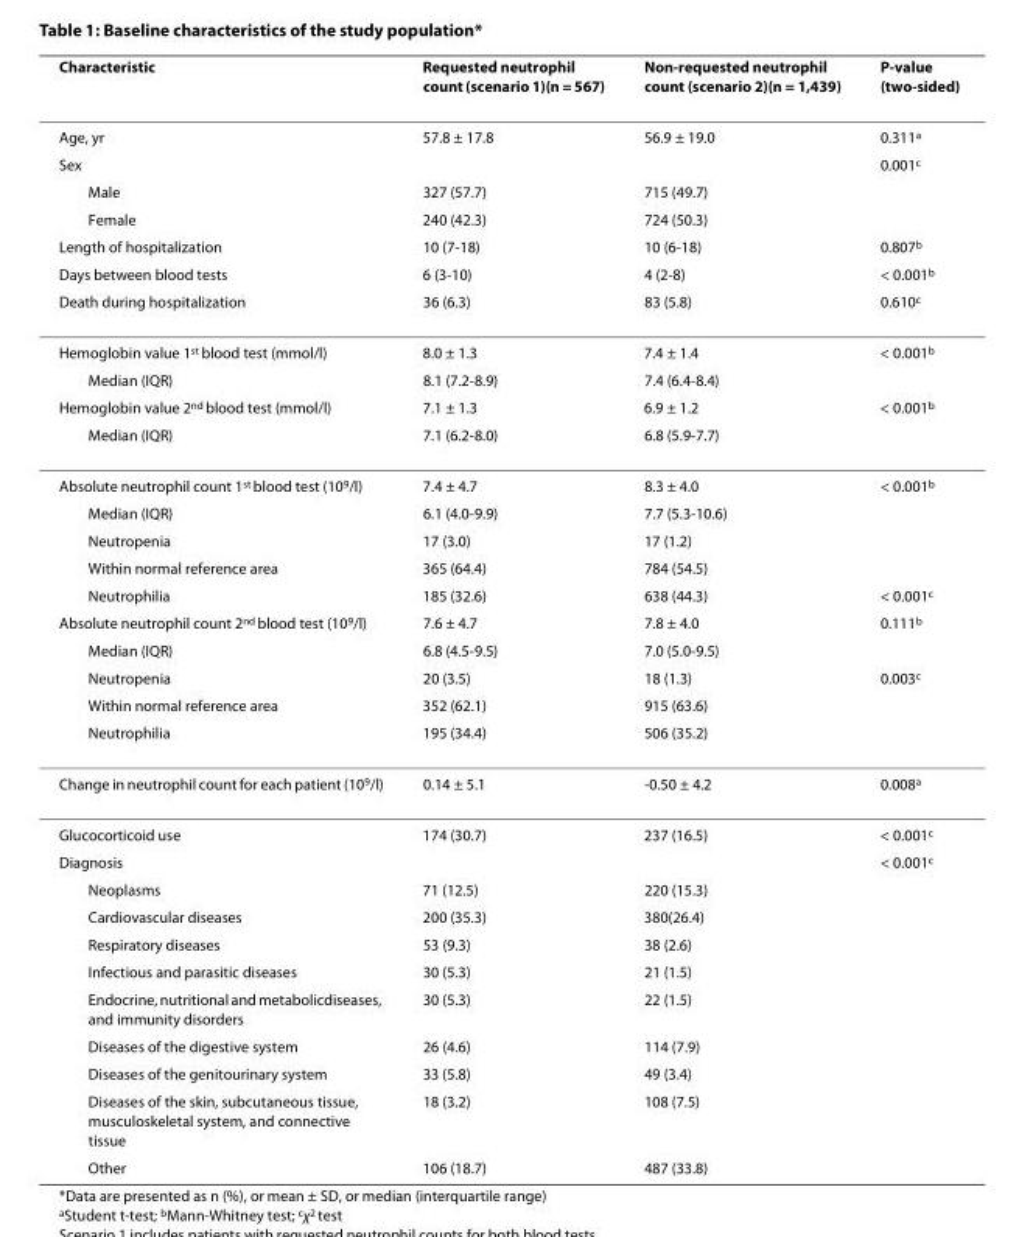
<table><thead><tr><td>Characteristic</td><td>Requested neutrophil count (scenario 1)(n = 567)</td><td>Non-requested neutrophil count (scenario 2)(n = 1,439)</td><td>P-value (two-sided)</td></tr></thead><tbody><tr><td>Age, yr</td><td>57.8 ± 17.8</td><td>56.9 ± 19.0</td><td>0.311<sup>a</sup></td></tr><tr><td>Sex</td><td></td><td></td><td>0.001<sup>c</sup></td></tr><tr><td>Male</td><td>327 (57.7)</td><td>715 (49.7)</td><td></td></tr><tr><td>Female</td><td>240 (42.3)</td><td>724 (50.3)</td><td></td></tr><tr><td>Length of hospitalization</td><td>10 (7-18)</td><td>10 (6-18)</td><td>0.807<sup>b</sup></td></tr><tr><td>Days between blood tests</td><td>6 (3-10)</td><td>4 (2-8)</td><td>&lt; 0.001<sup>b</sup></td></tr><tr><td>Death during hospitalization</td><td>36 (6.3)</td><td>83 (5.8)</td><td>0.610<sup>c</sup></td></tr><tr><td>Hemoglobin value 1<sup>st</sup> blood test (mmol/l)</td><td>8.0 ± 1.3</td><td>7.4 ± 1.4</td><td>&lt; 0.001<sup>b</sup></td></tr><tr><td>Median (IQR)</td><td>8.1 (7.2-8.9)</td><td>7.4 (6.4-8.4)</td><td></td></tr><tr><td>Hemoglobin value 2<sup>nd</sup> blood test (mmol/l)</td><td>7.1 ± 1.3</td><td>6.9 ± 1.2</td><td>&lt; 0.001<sup>b</sup></td></tr><tr><td>Median (IQR)</td><td>7.1 (6.2-8.0)</td><td>6.8 (5.9-7.7)</td><td></td></tr><tr><td>Absolute neutrophil count 1<sup>st</sup> blood test (10<sup>9</sup>/l)</td><td>7.4 ± 4.7</td><td>8.3 ± 4.0</td><td>&lt; 0.001<sup>b</sup></td></tr><tr><td>Median (IQR)</td><td>6.1 (4.0-9.9)</td><td>7.7 (5.3-10.6)</td><td></td></tr><tr><td>Neutropenia</td><td>17 (3.0)</td><td>17 (1.2)</td><td></td></tr><tr><td>Within normal reference area</td><td>365 (64.4)</td><td>784 (54.5)</td><td></td></tr><tr><td>Neutrophilia</td><td>185 (32.6)</td><td>638 (44.3)</td><td>&lt; 0.001<sup>c</sup></td></tr><tr><td>Absolute neutrophil count 2<sup>nd</sup> blood test (10<sup>9</sup>/l)</td><td>7.6 ± 4.7</td><td>7.8 ± 4.0</td><td>0.111<sup>b</sup></td></tr><tr><td>Median (IQR)</td><td>6.8 (4.5-9.5)</td><td>7.0 (5.0-9.5)</td><td></td></tr><tr><td>Neutropenia</td><td>20 (3.5)</td><td>18 (1.3)</td><td>0.003<sup>c</sup></td></tr><tr><td>Within normal reference area</td><td>352 (62.1)</td><td>915 (63.6)</td><td></td></tr><tr><td>Neutrophilia</td><td>195 (34.4)</td><td>506 (35.2)</td><td></td></tr><tr><td>Change in neutrophil count for each patient (10<sup>9</sup>/l)</td><td>0.14 ± 5.1</td><td>-0.50 ± 4.2</td><td>0.008<sup>a</sup></td></tr><tr><td>Glucocorticoid use</td><td>174 (30.7)</td><td>237 (16.5)</td><td>&lt; 0.001<sup>c</sup></td></tr><tr><td>Diagnosis</td><td></td><td></td><td>&lt; 0.001<sup>c</sup></td></tr><tr><td>Neoplasms</td><td>71 (12.5)</td><td>220 (15.3)</td><td></td></tr><tr><td>Cardiovascular diseases</td><td>200 (35.3)</td><td>380(26.4)</td><td></td></tr><tr><td>Respiratory diseases</td><td>53 (9.3)</td><td>38 (2.6)</td><td></td></tr><tr><td>Infectious and parasitic diseases</td><td>30 (5.3)</td><td>21 (1.5)</td><td></td></tr><tr><td>Endocrine, nutritional and metabolicdiseases, and immunity disorders</td><td>30 (5.3)</td><td>22 (1.5)</td><td></td></tr><tr><td>Diseases of the digestive system</td><td>26 (4.6)</td><td>114 (7.9)</td><td></td></tr><tr><td>Diseases of the genitourinary system</td><td>33 (5.8)</td><td>49 (3.4)</td><td></td></tr><tr><td>Diseases of the skin, subcutaneous tissue, musculoskeletal system, and connective tissue</td><td>18 (3.2)</td><td>108 (7.5)</td><td></td></tr><tr><td>Other</td><td>106 (18.7)</td><td>487 (33.8)</td><td></td></tr></tbody></table>